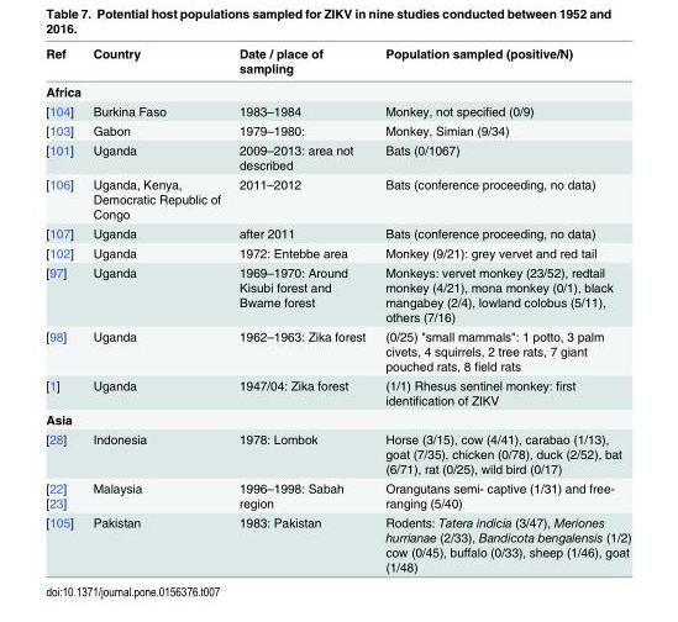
<table><thead><tr><td>Ref</td><td>Country</td><td>Date / place of sampling</td><td>Population sampled (positive/N)</td></tr></thead><tbody><tr><td colspan="4">Africa</td></tr><tr><td>[104]</td><td>Burkina Faso</td><td>1983–1984</td><td>Monkey, not specified (0/9)</td></tr><tr><td>[103]</td><td>Gabon</td><td>1979–1980:</td><td>Monkey, Simian (9/34)</td></tr><tr><td>[101]</td><td>Uganda</td><td>2009–2013: area not described</td><td>Bats (0/1067)</td></tr><tr><td>[106]</td><td>Uganda, Kenya, Democratic Republic of Congo</td><td>2011–2012</td><td>Bats (conference proceeding, no data)</td></tr><tr><td>[107]</td><td>Uganda</td><td>after 2011</td><td>Bats (conference proceeding, no data)</td></tr><tr><td>[102]</td><td>Uganda</td><td>1972: Entebbe area</td><td>Monkey (9/21): grey vervet and red tail</td></tr><tr><td>[97]</td><td>Uganda</td><td>1969–1970: Around Kisubi forest and Bwame forest</td><td>Monkeys: vervet monkey (23/52), redtail monkey (4/21), mona monkey (0/1), black mangabey (2/4), lowland colobus (5/11), others (7/16)</td></tr><tr><td>[98]</td><td>Uganda</td><td>1962–1963: Zika forest</td><td>(0/25) &quot;small mammals&quot;: 1 potto, 3 palm civets, 4 squirrels, 2 tree rats, 7 giant pouched rats, 8 field rats</td></tr><tr><td>[1]</td><td>Uganda</td><td>1947/04: Zika forest</td><td>(1/1) Rhesus sentinel monkey: first identification of ZIKV</td></tr><tr><td colspan="4">Asia</td></tr><tr><td>[28]</td><td>Indonesia</td><td>1978: Lombok</td><td>Horse (3/15), cow (4/41), carabao (1/13), goat (7/35), chicken (0/78), duck (2/52), bat (6/71), rat (0/25), wild bird (0/17)</td></tr><tr><td>[22] [23]</td><td>Malaysia</td><td>1996–1998: Sabah region</td><td>Orangutans semi- captive (1/31) and free- ranging (5/40)</td></tr><tr><td>[105]</td><td>Pakistan</td><td>1983: Pakistan</td><td>Rodents: Tatera indicia (3/47), Meriones hurrianae (2/33), Bandicota bengalensis (1/2) cow (0/45), buffalo (0/33), sheep (1/46), goat (1/48)</td></tr></tbody></table>